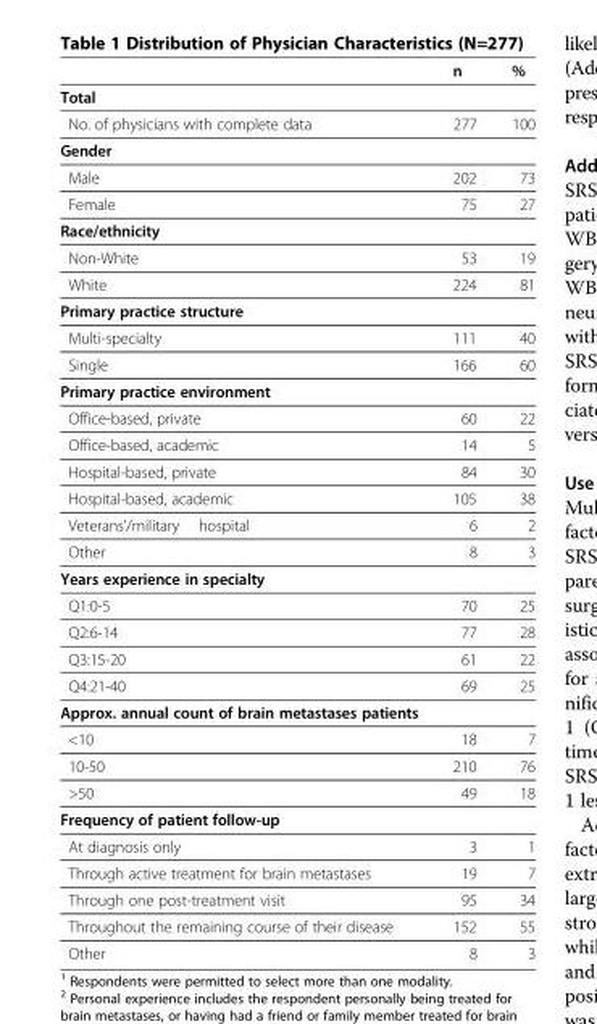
<table><thead><tr><td></td><td>n</td><td>%</td></tr></thead><tbody><tr><td colspan="3">Total</td></tr><tr><td>No. of physicians with complete data</td><td>277</td><td>100</td></tr><tr><td colspan="3">Gender</td></tr><tr><td>Male</td><td>202</td><td>73</td></tr><tr><td>Female</td><td>75</td><td>27</td></tr><tr><td colspan="3">Race/ethnicity</td></tr><tr><td>Non-White</td><td>53</td><td>19</td></tr><tr><td>White</td><td>224</td><td>81</td></tr><tr><td colspan="3">Primary practice structure</td></tr><tr><td>Multi-specialty</td><td>111</td><td>40</td></tr><tr><td>Single</td><td>166</td><td>60</td></tr><tr><td colspan="3">Primary practice environment</td></tr><tr><td>Office-based, private</td><td>60</td><td>22</td></tr><tr><td>Office-based, academic</td><td>14</td><td>5</td></tr><tr><td>Hospital-based, private</td><td>84</td><td>30</td></tr><tr><td>Hospital-based, academic</td><td>105</td><td>38</td></tr><tr><td>Veterans&#x27;/military hospital</td><td>6</td><td>2</td></tr><tr><td>Other</td><td>8</td><td>3</td></tr><tr><td colspan="3">Years experience in specialty</td></tr><tr><td>Q1:0-5</td><td>70</td><td>25</td></tr><tr><td>Q2:6-14</td><td>77</td><td>28</td></tr><tr><td>Q3:15-20</td><td>61</td><td>22</td></tr><tr><td>Q4:21-40</td><td>69</td><td>25</td></tr><tr><td colspan="3">Approx. annual count of brain metastases patients</td></tr><tr><td>&lt;10</td><td>18</td><td>7</td></tr><tr><td>10-50</td><td>210</td><td>76</td></tr><tr><td>&gt;50</td><td>49</td><td>18</td></tr><tr><td colspan="3">Frequency of patient follow-up</td></tr><tr><td>At diagnosis only</td><td>3</td><td>1</td></tr><tr><td>Through active treatment for brain metastases</td><td>19</td><td>7</td></tr><tr><td>Through one post-treatment visit</td><td>95</td><td>34</td></tr><tr><td>Throughout the remaining course of their disease</td><td>152</td><td>55</td></tr><tr><td>Other</td><td>8</td><td>3</td></tr></tbody></table>